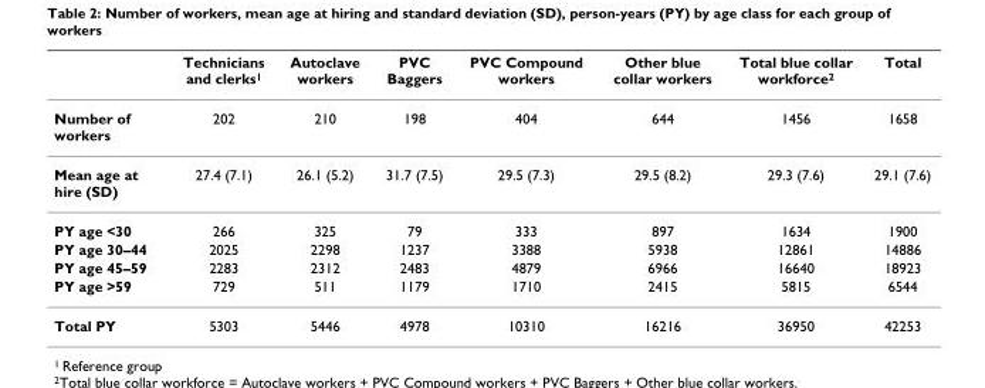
<table><thead><tr><td></td><td>Technicians and clerks<sup>1</sup></td><td>Autoclave workers</td><td>PVC Baggers</td><td>PVC Compound workers</td><td>Other blue collar workers</td><td>Total blue collar workforce<sup>2</sup></td><td>Total</td></tr></thead><tbody><tr><td>Number of workers</td><td>202</td><td>210</td><td>198</td><td>404</td><td>644</td><td>1456</td><td>1658</td></tr><tr><td>Mean age at hire (SD)</td><td>27.4 (7.1)</td><td>26.1 (5.2)</td><td>31.7 (7.5)</td><td>29.5 (7.3)</td><td>29.5 (8.2)</td><td>29.3 (7.6)</td><td>29.1 (7.6)</td></tr><tr><td>PY age &lt;30</td><td>266</td><td>325</td><td>79</td><td>333</td><td>897</td><td>1634</td><td>1900</td></tr><tr><td>PY age 30–44</td><td>2025</td><td>2298</td><td>1237</td><td>3388</td><td>5938</td><td>12861</td><td>14886</td></tr><tr><td>PY age 45–59</td><td>2283</td><td>2312</td><td>2483</td><td>4879</td><td>6966</td><td>16640</td><td>18923</td></tr><tr><td>PY age &gt;59</td><td>729</td><td>511</td><td>1179</td><td>1710</td><td>2415</td><td>5815</td><td>6544</td></tr><tr><td>Total PY</td><td>5303</td><td>5446</td><td>4978</td><td>10310</td><td>16216</td><td>36950</td><td>42253</td></tr></tbody></table>